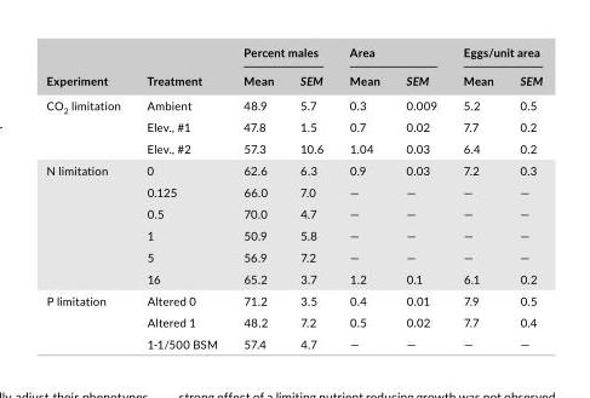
<table><thead><tr><td rowspan="2">Experiment</td><td rowspan="2">Treatment</td><td colspan="2">Percent males</td><td colspan="2">Area</td><td colspan="2">Eggs/unit area</td></tr><tr><td>Mean</td><td>SEM</td><td>Mean</td><td>SEM</td><td>Mean</td><td>SEM</td></tr></thead><tbody><tr><td rowspan="3">CO<sub>2</sub> limitation</td><td>Ambient</td><td>48.9</td><td>5.7</td><td>0.3</td><td>0.009</td><td>5.2</td><td>0.5</td></tr><tr><td>Elev., #1</td><td>47.8</td><td>1.5</td><td>0.7</td><td>0.02</td><td>7.7</td><td>0.2</td></tr><tr><td>Elev., #2</td><td>57.3</td><td>10.6</td><td>1.04</td><td>0.03</td><td>6.4</td><td>0.2</td></tr><tr><td rowspan="6">N limitation</td><td>0</td><td>62.6</td><td>6.3</td><td>0.9</td><td>0.03</td><td>7.2</td><td>0.3</td></tr><tr><td>0.125</td><td>66.0</td><td>7.0</td><td>—</td><td>—</td><td>—</td><td>—</td></tr><tr><td>0.5</td><td>70.0</td><td>4.7</td><td>—</td><td>—</td><td>—</td><td>—</td></tr><tr><td>1</td><td>50.9</td><td>5.8</td><td>—</td><td>—</td><td>—</td><td>—</td></tr><tr><td>5</td><td>56.9</td><td>7.2</td><td>—</td><td>—</td><td>—</td><td>—</td></tr><tr><td>16</td><td>65.2</td><td>3.7</td><td>1.2</td><td>0.1</td><td>6.1</td><td>0.2</td></tr><tr><td rowspan="3">P limitation</td><td>Altered 0</td><td>71.2</td><td>3.5</td><td>0.4</td><td>0.01</td><td>7.9</td><td>0.5</td></tr><tr><td>Altered 1</td><td>48.2</td><td>7.2</td><td>0.5</td><td>0.02</td><td>7.7</td><td>0.4</td></tr><tr><td>1- 1/500 BSM</td><td>57.4</td><td>4.7</td><td>—</td><td>—</td><td>—</td><td>—</td></tr></tbody></table>